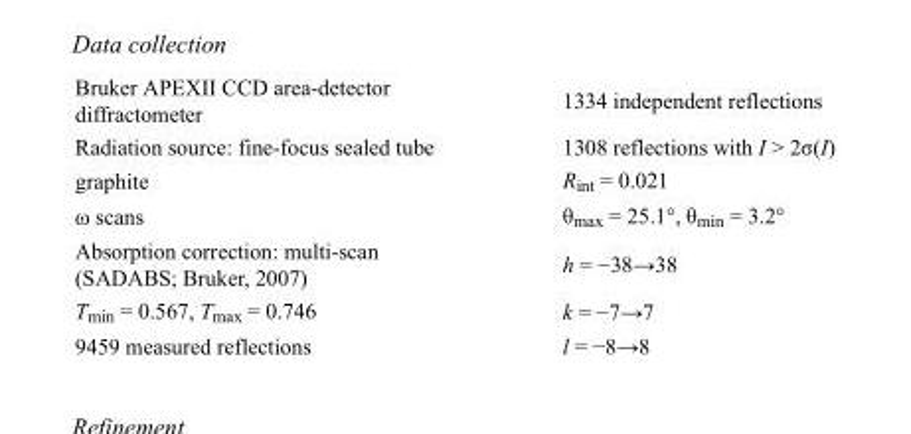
<table><tbody><tr><td>Bruker APEXII CCD area-detector diffractometer</td><td>1334 independent reflections</td></tr><tr><td>Radiation source: fine-focus sealed tube</td><td>1308 reflections with I &gt; 2σ(I)</td></tr><tr><td>graphite</td><td>R<sub>int</sub> = 0.021</td></tr><tr><td>ω scans</td><td>θ<sub>max</sub> = 25.1°, θ<sub>min</sub> = 3.2°</td></tr><tr><td>Absorption correction: multi-scan (SADABS; Bruker, 2007)</td><td>h = −38→38</td></tr><tr><td>T<sub>min</sub> = 0.567, T<sub>max</sub> = 0.746</td><td>k = −7→7</td></tr><tr><td>9459 measured reflections</td><td>l = −8→8</td></tr></tbody></table>